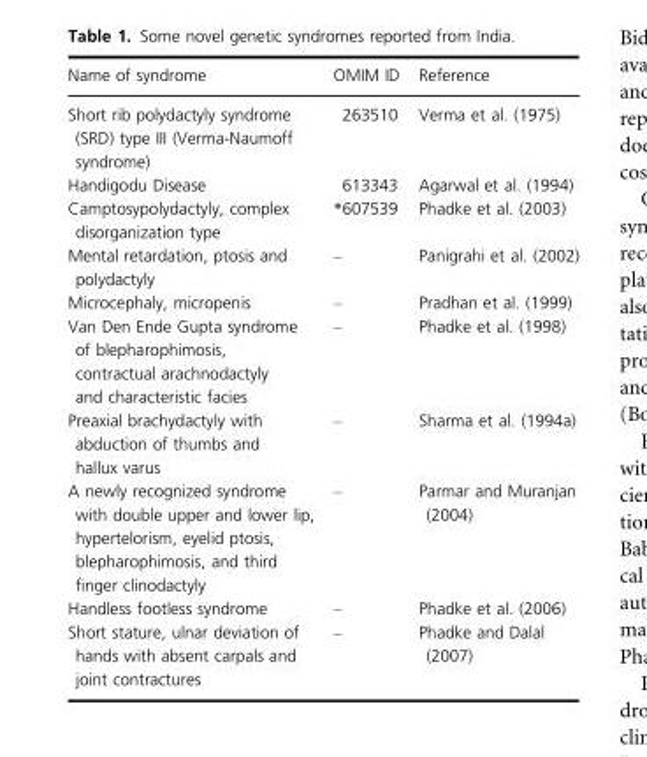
<table><thead><tr><td>Name of syndrome</td><td>OMIM ID</td><td>Reference</td></tr></thead><tbody><tr><td>Short rib polydactyly syndrome (SRD) type III (Verma-Naumoff syndrome)</td><td>263510</td><td>Verma et al. (1975)</td></tr><tr><td>Handigodu Disease</td><td>613343</td><td>Agarwal et al. (1994)</td></tr><tr><td>Camptosypolydactyly, complex disorganization type</td><td>*607539</td><td>Phadke et al. (2003)</td></tr><tr><td>Mental retardation, ptosis and polydactyly</td><td>–</td><td>Panigrahi et al. (2002)</td></tr><tr><td>Microcephaly, micropenis</td><td>–</td><td>Pradhan et al. (1999)</td></tr><tr><td>Van Den Ende Gupta syndrome of blepharophimosis, contractual arachnodactyly and characteristic facies</td><td>–</td><td>Phadke et al. (1998)</td></tr><tr><td>Preaxial brachydactyly with abduction of thumbs and hallux varus</td><td>–</td><td>Sharma et al. (1994a)</td></tr><tr><td>A newly recognized syndrome with double upper and lower lip, hypertelorism, eyelid ptosis, blepharophimosis, and third finger clinodactyly</td><td>–</td><td>Parmar and Muranjan (2004)</td></tr><tr><td>Handless footless syndrome</td><td>–</td><td>Phadke et al. (2006)</td></tr><tr><td>Short stature, ulnar deviation of hands with absent carpals and joint contractures</td><td>–</td><td>Phadke and Dalal (2007)</td></tr></tbody></table>